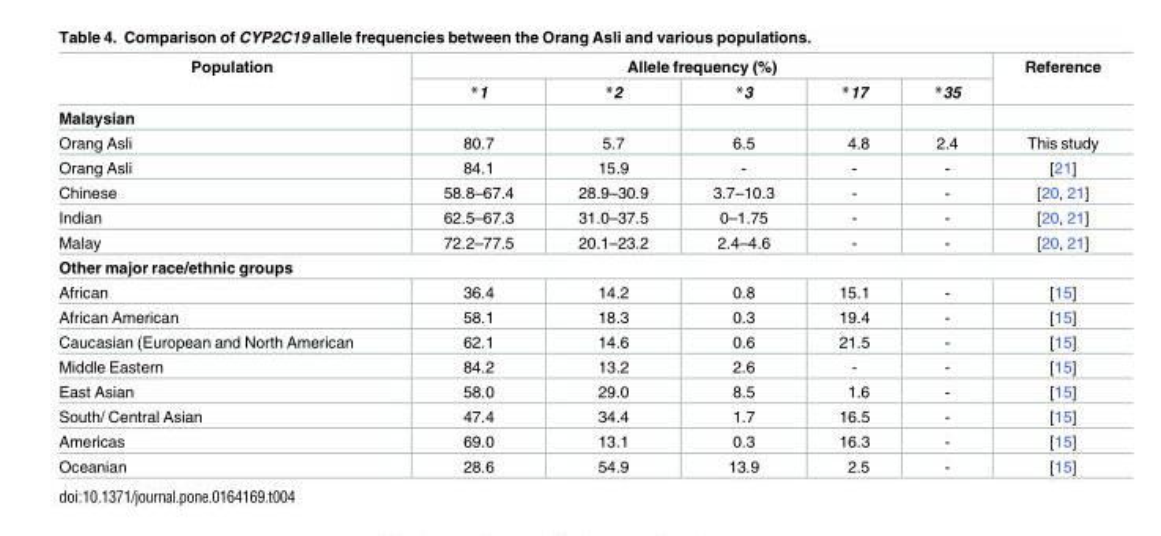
<table><thead><tr><td rowspan="2">Population</td><td colspan="5">Allele frequency (%)</td><td rowspan="2">Reference</td></tr><tr><td>*1</td><td>*2</td><td>*3</td><td>*17</td><td>*35</td></tr></thead><tbody><tr><td colspan="7">Malaysian</td></tr><tr><td>Orang Asli</td><td>80.7</td><td>5.7</td><td>6.5</td><td>4.8</td><td>2.4</td><td>This study</td></tr><tr><td>Orang Asli</td><td>84.1</td><td>15.9</td><td>-</td><td>-</td><td>-</td><td>[21]</td></tr><tr><td>Chinese</td><td>58.8–67.4</td><td>28.9–30.9</td><td>3.7–10.3</td><td>-</td><td>-</td><td>[20, 21]</td></tr><tr><td>Indian</td><td>62.5–67.3</td><td>31.0–37.5</td><td>0–1.75</td><td>-</td><td>-</td><td>[20, 21]</td></tr><tr><td>Malay</td><td>72.2–77.5</td><td>20.1–23.2</td><td>2.4–4.6</td><td>-</td><td>-</td><td>[20, 21]</td></tr><tr><td colspan="7">Other major race/ethnic groups</td></tr><tr><td>African</td><td>36.4</td><td>14.2</td><td>0.8</td><td>15.1</td><td>-</td><td>[15]</td></tr><tr><td>African American</td><td>58.1</td><td>18.3</td><td>0.3</td><td>19.4</td><td>-</td><td>[15]</td></tr><tr><td>Caucasian (European and North American</td><td>62.1</td><td>14.6</td><td>0.6</td><td>21.5</td><td>-</td><td>[15]</td></tr><tr><td>Middle Eastern</td><td>84.2</td><td>13.2</td><td>2.6</td><td>-</td><td>-</td><td>[15]</td></tr><tr><td>East Asian</td><td>58.0</td><td>29.0</td><td>8.5</td><td>1.6</td><td>-</td><td>[15]</td></tr><tr><td>South/ Central Asian</td><td>47.4</td><td>34.4</td><td>1.7</td><td>16.5</td><td>-</td><td>[15]</td></tr><tr><td>Americas</td><td>69.0</td><td>13.1</td><td>0.3</td><td>16.3</td><td>-</td><td>[15]</td></tr><tr><td>Oceanian</td><td>28.6</td><td>54.9</td><td>13.9</td><td>2.5</td><td>-</td><td>[15]</td></tr></tbody></table>